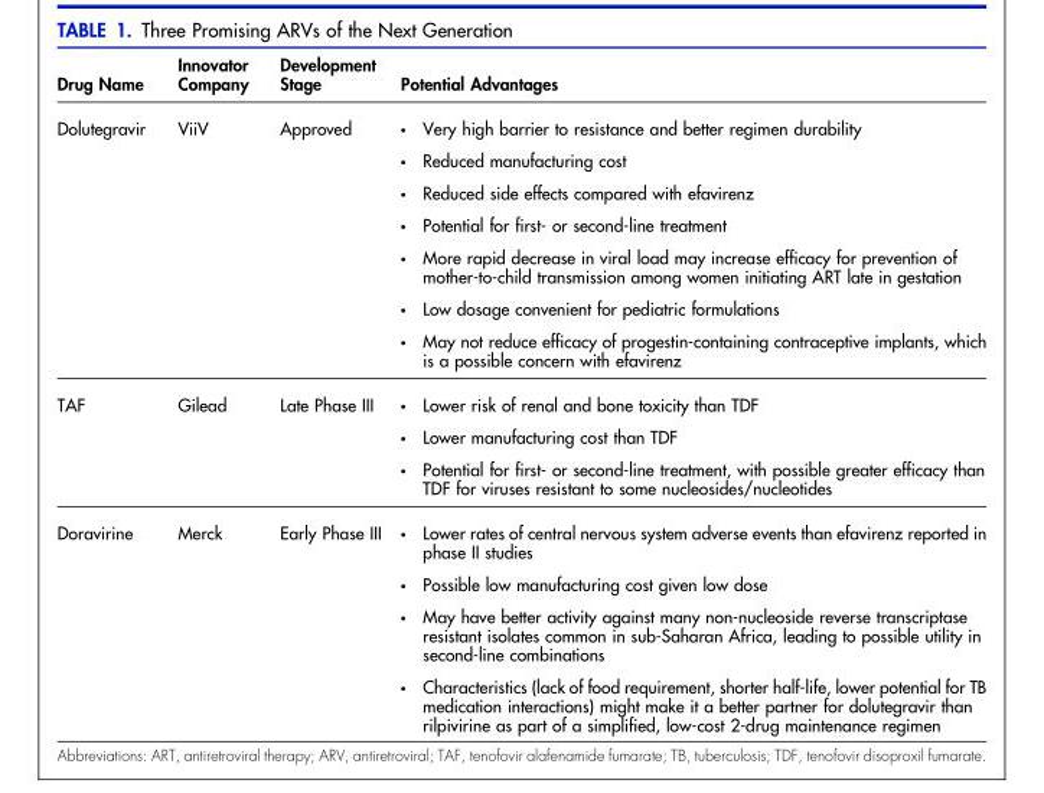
<table><thead><tr><td>Drug Name</td><td>Innovator Company</td><td>Development Stage</td><td>Potential Advantages</td></tr></thead><tbody><tr><td>Dolutegravir</td><td>ViiV</td><td>Approved</td><td>N Very high barrier to resistance and better regimen durability N Reduced manufacturing cost N Reduced side effects compared with efavirenz N Potential for first- or second-line treatment N More rapid decrease in viral load may increase efficacy for prevention of mother-to-child transmission among women initiating ART late in gestation N Low dosage convenient for pediatric formulations N May not reduce efficacy of progestin-containing contraceptive implants, which is a possible concern with efavirenz</td></tr><tr><td>TAF</td><td>Gilead</td><td>Late Phase III</td><td>N Lower risk of renal and bone toxicity than TDF N Lower manufacturing cost than TDF N Potential for first- or second-line treatment, with possible greater efficacy than TDF for viruses resistant to some nucleosides/nucleotides</td></tr><tr><td>Doravirine</td><td>Merck</td><td>Early Phase III</td><td>N Lower rates of central nervous system adverse events than efavirenz reported in phase II studies N Possible low manufacturing cost given low dose N May have better activity against many non-nucleoside reverse transcriptase resistant isolates common in sub-Saharan Africa, leading to possible utility in second-line combinations N Characteristics (lack of food requirement, shorter half-life, lower potential for TB medication interactions) might make it a better partner for dolutegravir than rilpivirine as part of a simplified, low-cost 2-drug maintenance regimen</td></tr></tbody></table>